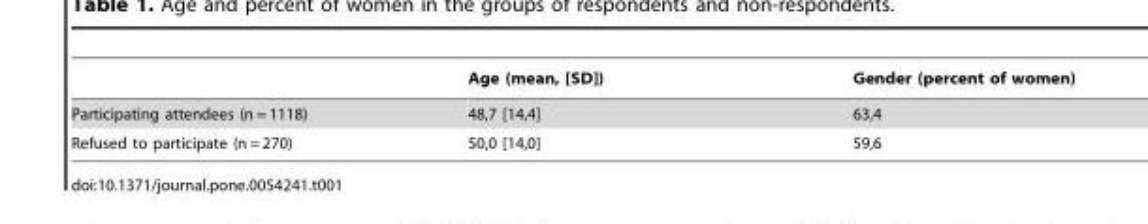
<table><thead><tr><td></td><td>Age (mean, [SD])</td><td>Gender (percent of women)</td></tr></thead><tbody><tr><td>Participating attendees (n = 1118)</td><td>48,7 [14,4]</td><td>63,4</td></tr><tr><td>Refused to participate (n = 270)</td><td>50,0 [14,0]</td><td>59,6</td></tr></tbody></table>